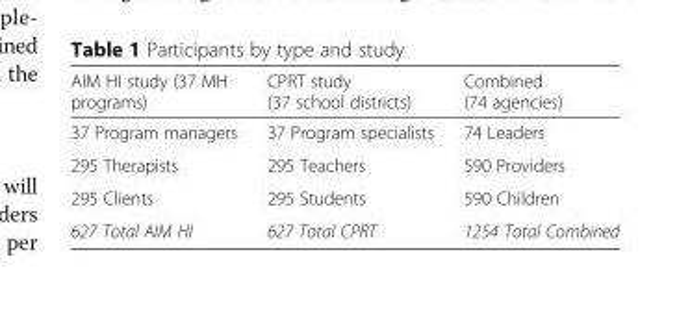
<table><thead><tr><td>AIM HI study (37 MH programs)</td><td>CPRT study (37 school districts)</td><td>Combined (74 agencies)</td></tr></thead><tbody><tr><td>37 Program managers</td><td>37 Program specialists</td><td>74 Leaders</td></tr><tr><td>295 Therapists</td><td>295 Teachers</td><td>590 Providers</td></tr><tr><td>295 Clients</td><td>295 Students</td><td>590 Children</td></tr><tr><td>627 Total AIM HI</td><td>627 Total CPRT</td><td>1254 Total Combined</td></tr></tbody></table>